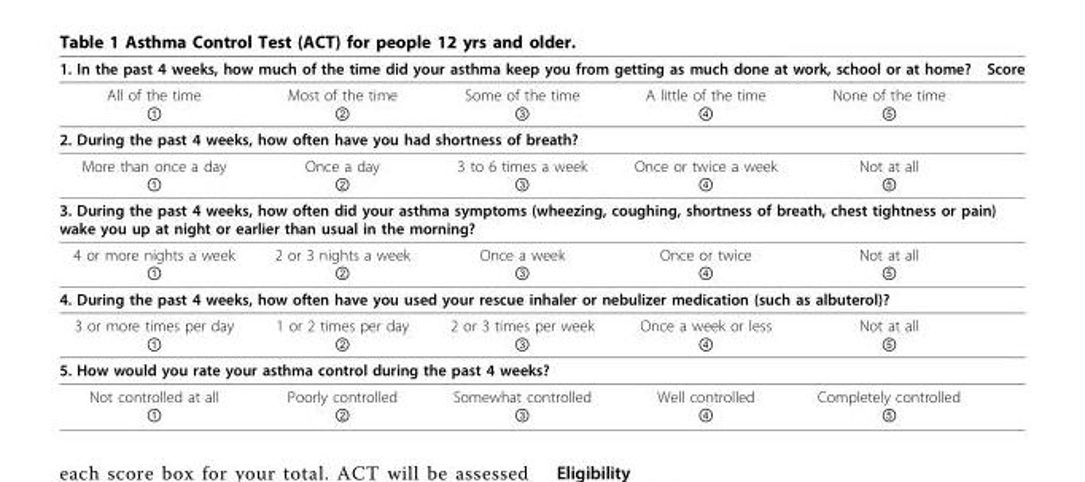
<table><thead><tr><td colspan="5">1. In the past 4 weeks, how much of the time did your asthma keep you from getting as much done at work, school or at home?</td><td rowspan="2">Score</td></tr><tr><td>All of the time ①</td><td>Most of the time ②</td><td>Some of the time ③</td><td>A little of the time ④</td><td>None of the time ⑤</td></tr></thead><tbody><tr><td colspan="6">2. During the past 4 weeks, how often have you had shortness of breath?</td></tr><tr><td>More than once a day ①</td><td>Once a day ②</td><td>3 to 6 times a week ③</td><td>Once or twice a week ④</td><td>Not at all ⑤</td><td></td></tr><tr><td colspan="6">3. During the past 4 weeks, how often did your asthma symptoms (wheezing, coughing, shortness of breath, chest tightness or pain) wake you up at night or earlier than usual in the morning?</td></tr><tr><td>4 or more nights a week ①</td><td>2 or 3 nights a week ②</td><td>Once a week ③</td><td>Once or twice ④</td><td>Not at all ⑤</td><td></td></tr><tr><td colspan="6">4. During the past 4 weeks, how often have you used your rescue inhaler or nebulizer medication (such as albuterol)?</td></tr><tr><td>3 or more times per day ①</td><td>1 or 2 times per day ②</td><td>2 or 3 times per week ③</td><td>Once a week or less ④</td><td>Not at all ⑤</td><td></td></tr><tr><td colspan="6">5. How would you rate your asthma control during the past 4 weeks?</td></tr><tr><td>Not controlled at all ①</td><td>Poorly controlled ②</td><td>Somewhat controlled ③</td><td>Well controlled ④</td><td>Completely controlled ⑤</td><td></td></tr></tbody></table>